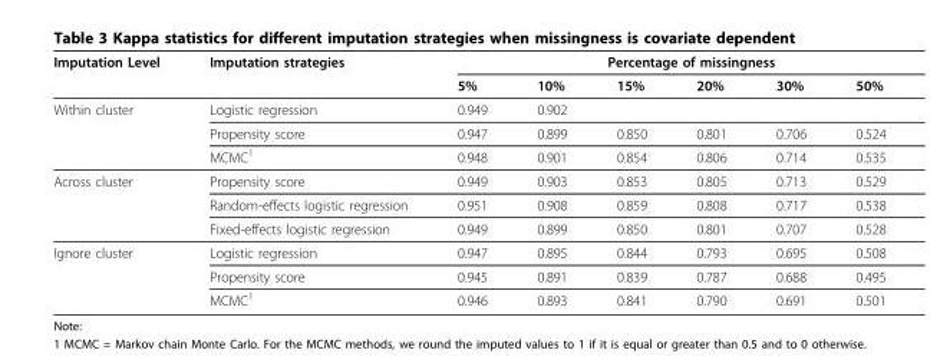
<table><thead><tr><td rowspan="2">Imputation Level</td><td rowspan="2">Imputation strategies</td><td colspan="6">Percentage of missingness</td></tr><tr><td>5%</td><td>10%</td><td>15%</td><td>20%</td><td>30%</td><td>50%</td></tr></thead><tbody><tr><td rowspan="3">Within cluster</td><td>Logistic regression</td><td>0.949</td><td>0.902</td><td></td><td></td><td></td><td></td></tr><tr><td>Propensity score</td><td>0.947</td><td>0.899</td><td>0.850</td><td>0.801</td><td>0.706</td><td>0.524</td></tr><tr><td>MCMC<sup>1</sup></td><td>0.948</td><td>0.901</td><td>0.854</td><td>0.806</td><td>0.714</td><td>0.535</td></tr><tr><td rowspan="3">Across cluster</td><td>Propensity score</td><td>0.949</td><td>0.903</td><td>0.853</td><td>0.805</td><td>0.713</td><td>0.529</td></tr><tr><td>Random-effects logistic regression</td><td>0.951</td><td>0.908</td><td>0.859</td><td>0.808</td><td>0.717</td><td>0.538</td></tr><tr><td>Fixed-effects logistic regression</td><td>0.949</td><td>0.899</td><td>0.850</td><td>0.801</td><td>0.707</td><td>0.528</td></tr><tr><td rowspan="3">Ignore cluster</td><td>Logistic regression</td><td>0.947</td><td>0.895</td><td>0.844</td><td>0.793</td><td>0.695</td><td>0.508</td></tr><tr><td>Propensity score</td><td>0.945</td><td>0.891</td><td>0.839</td><td>0.787</td><td>0.688</td><td>0.495</td></tr><tr><td>MCMC<sup>1</sup></td><td>0.946</td><td>0.893</td><td>0.841</td><td>0.790</td><td>0.691</td><td>0.501</td></tr></tbody></table>